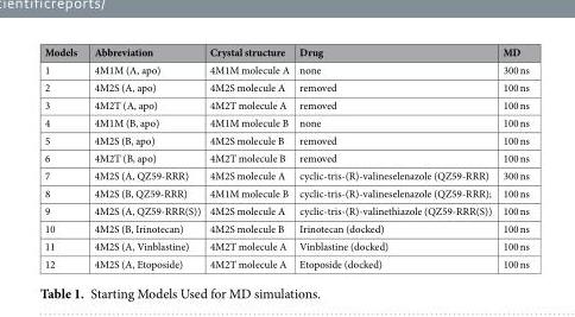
<table><thead><tr><td>Models</td><td>Abbreviation</td><td>Crystal structure</td><td>Drug</td><td>MD</td></tr></thead><tbody><tr><td>1</td><td>4M1M (A, apo)</td><td>4M1M molecule A</td><td>none</td><td>300 ns</td></tr><tr><td>2</td><td>4M2S (A, apo)</td><td>4M2S molecule A</td><td>removed</td><td>100 ns</td></tr><tr><td>3</td><td>4M2T (A, apo)</td><td>4M2T molecule A</td><td>removed</td><td>100 ns</td></tr><tr><td>4</td><td>4M1M (B, apo)</td><td>4M1M molecule B</td><td>none</td><td>100 ns</td></tr><tr><td>5</td><td>4M2S (B, apo)</td><td>4M2S molecule B</td><td>removed</td><td>100 ns</td></tr><tr><td>6</td><td>4M2T (B, apo)</td><td>4M2T molecule B</td><td>removed</td><td>100 ns</td></tr><tr><td>7</td><td>4M2S (A, QZ59-RRR)</td><td>4M2S molecule A</td><td>cyclic-tris-(R)-valineselenazole (QZ59-RRR)</td><td>300 ns</td></tr><tr><td>8</td><td>4M2S (B, QZ59-RRR)</td><td>4M1M molecule B</td><td>cyclic-tris-(R)-valineselenazole (QZ59-RRR);</td><td>100 ns</td></tr><tr><td>9</td><td>4M2S (A, QZ59-RRR(S))</td><td>4M2S molecule A</td><td>cyclic-tris-(R)-valinethiazole (QZ59-RRR(S))</td><td>100 ns</td></tr><tr><td>10</td><td>4M2S (B, Irinotecan)</td><td>4M2S molecule B</td><td>Irinotecan (docked)</td><td>100 ns</td></tr><tr><td>11</td><td>4M2S (A, Vinblastine)</td><td>4M2T molecule A</td><td>Vinblastine (docked)</td><td>100 ns</td></tr><tr><td>12</td><td>4M2S (A, Etoposide)</td><td>4M2T molecule A</td><td>Etoposide (docked)</td><td>100 ns</td></tr></tbody></table>